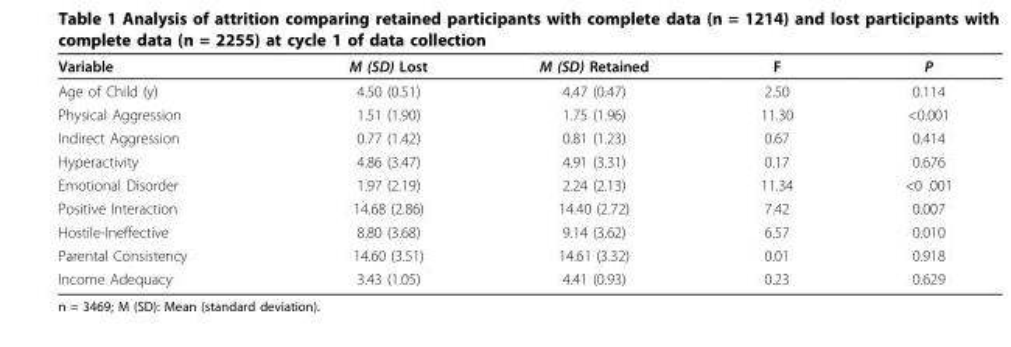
<table><thead><tr><td>Variable</td><td>M (SD) Lost</td><td>M (SD) Retained</td><td>F</td><td>P</td></tr></thead><tbody><tr><td>Age of Child (y)</td><td>4.50 (0.51)</td><td>4.47 (0.47)</td><td>2.50</td><td>0.114</td></tr><tr><td>Physical Aggression</td><td>1.51 (1.90)</td><td>1.75 (1.96)</td><td>11.30</td><td>&lt;0.001</td></tr><tr><td>Indirect Aggression</td><td>0.77 (1.42)</td><td>0.81 (1.23)</td><td>0.67</td><td>0.414</td></tr><tr><td>Hyperactivity</td><td>4.86 (3.47)</td><td>4.91 (3.31)</td><td>0.17</td><td>0.676</td></tr><tr><td>Emotional Disorder</td><td>1.97 (2.19)</td><td>2.24 (2.13)</td><td>11.34</td><td>&lt;0 .001</td></tr><tr><td>Positive Interaction</td><td>14.68 (2.86)</td><td>14.40 (2.72)</td><td>7.42</td><td>0.007</td></tr><tr><td>Hostile-Ineffective</td><td>8.80 (3.68)</td><td>9.14 (3.62)</td><td>6.57</td><td>0.010</td></tr><tr><td>Parental Consistency</td><td>14.60 (3.51)</td><td>14.61 (3.32)</td><td>0.01</td><td>0.918</td></tr><tr><td>Income Adequacy</td><td>3.43 (1.05)</td><td>4.41 (0.93)</td><td>0.23</td><td>0.629</td></tr></tbody></table>